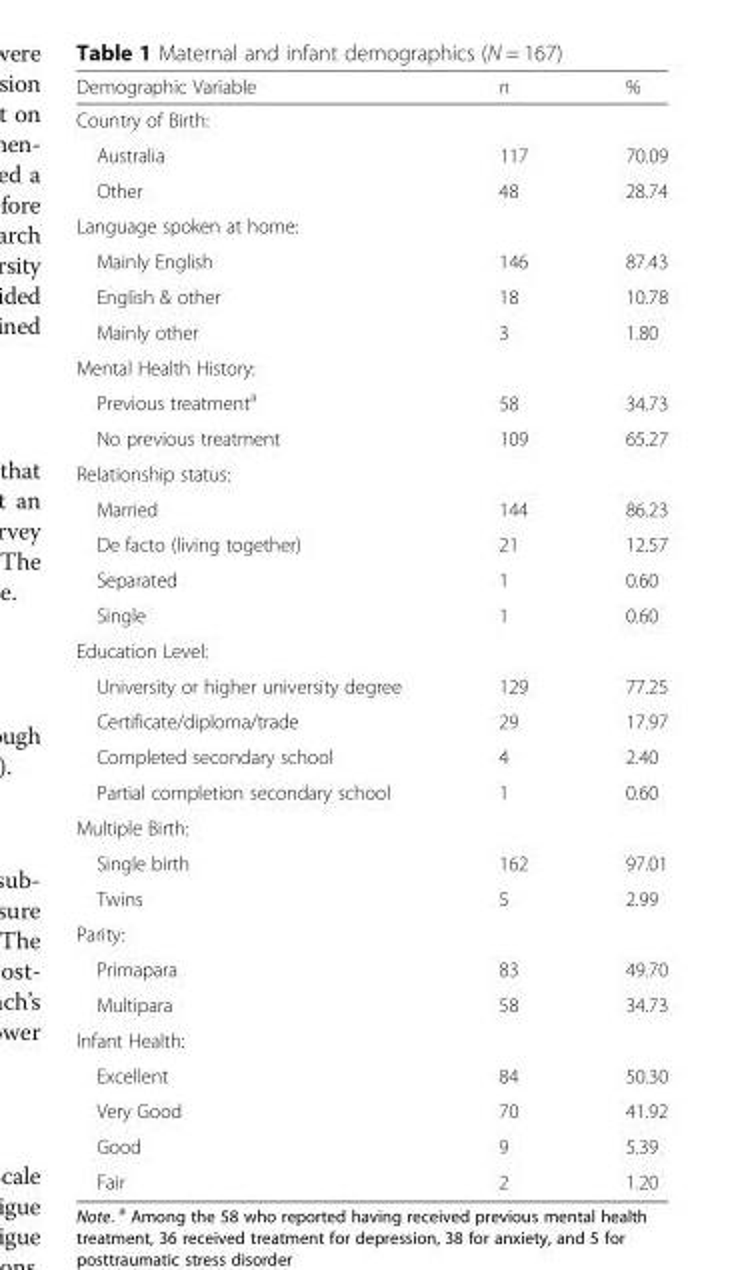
<table><thead><tr><td>Demographic Variable</td><td>n</td><td>%</td></tr></thead><tbody><tr><td colspan="3">Country of Birth:</td></tr><tr><td>Australia</td><td>117</td><td>70.09</td></tr><tr><td>Other</td><td>48</td><td>28.74</td></tr><tr><td colspan="3">Language spoken at home:</td></tr><tr><td>Mainly English</td><td>146</td><td>87.43</td></tr><tr><td>English &amp; other</td><td>18</td><td>10.78</td></tr><tr><td>Mainly other</td><td>3</td><td>1.80</td></tr><tr><td colspan="3">Mental Health History:</td></tr><tr><td>Previous treatment<sup>a</sup></td><td>58</td><td>34.73</td></tr><tr><td>No previous treatment</td><td>109</td><td>65.27</td></tr><tr><td colspan="3">Relationship status:</td></tr><tr><td>Married</td><td>144</td><td>86.23</td></tr><tr><td>De facto (living together)</td><td>21</td><td>12.57</td></tr><tr><td>Separated</td><td>1</td><td>0.60</td></tr><tr><td>Single</td><td>1</td><td>0.60</td></tr><tr><td colspan="3">Education Level:</td></tr><tr><td>University or higher university degree</td><td>129</td><td>77.25</td></tr><tr><td>Certificate/diploma/trade</td><td>29</td><td>17.97</td></tr><tr><td>Completed secondary school</td><td>4</td><td>2.40</td></tr><tr><td>Partial completion secondary school</td><td>1</td><td>0.60</td></tr><tr><td colspan="3">Multiple Birth:</td></tr><tr><td>Single birth</td><td>162</td><td>97.01</td></tr><tr><td>Twins</td><td>5</td><td>2.99</td></tr><tr><td colspan="3">Parity:</td></tr><tr><td>Primapara</td><td>83</td><td>49.70</td></tr><tr><td>Multipara</td><td>58</td><td>34.73</td></tr><tr><td colspan="3">Infant Health:</td></tr><tr><td>Excellent</td><td>84</td><td>50.30</td></tr><tr><td>Very Good</td><td>70</td><td>41.92</td></tr><tr><td>Good</td><td>9</td><td>5.39</td></tr><tr><td>Fair</td><td>2</td><td>1.20</td></tr></tbody></table>